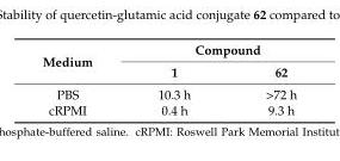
<table><thead><tr><td rowspan="2">Medium</td><td colspan="2">Compound</td></tr><tr><td>1</td><td>62</td></tr></thead><tbody><tr><td>PBS</td><td>10.3 h</td><td>&gt;72 h</td></tr><tr><td>cRPMI</td><td>0.4 h</td><td>9.3 h</td></tr></tbody></table>